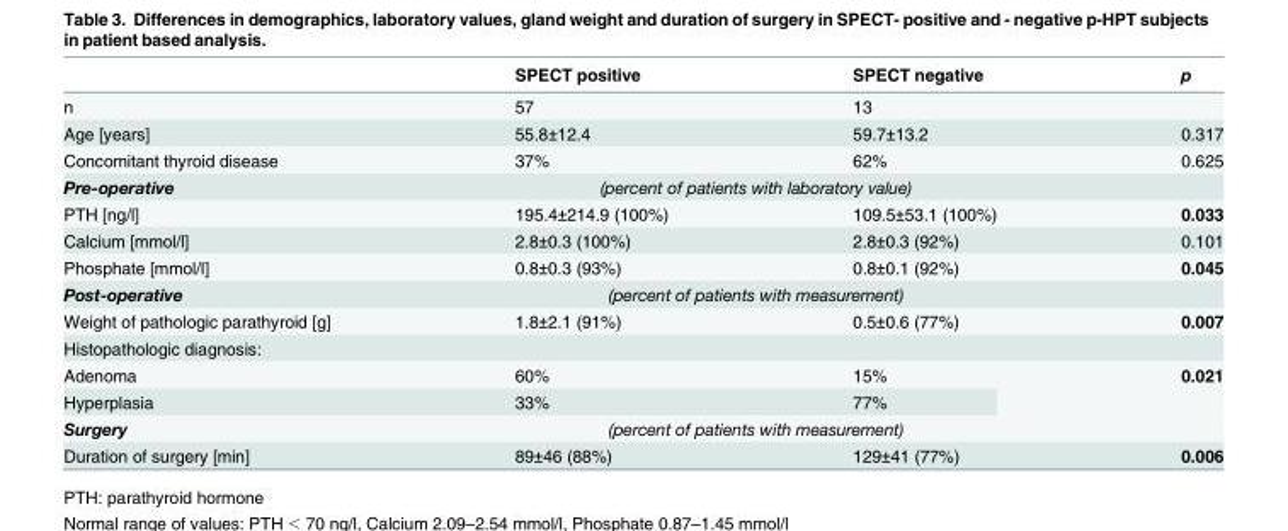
<table><thead><tr><td></td><td>SPECT positive</td><td>SPECT negative</td><td>p</td></tr></thead><tbody><tr><td>n</td><td>57</td><td>13</td><td></td></tr><tr><td>Age [years]</td><td>55.8±12.4</td><td>59.7±13.2</td><td>0.317</td></tr><tr><td>Concomitant thyroid disease</td><td>37%</td><td>62%</td><td>0.625</td></tr><tr><td>Pre-operative</td><td colspan="2">(percent of patients with laboratory value)</td><td></td></tr><tr><td>PTH [ng/l]</td><td>195.4±214.9 (100%)</td><td>109.5±53.1 (100%)</td><td>0.033</td></tr><tr><td>Calcium [mmol/l]</td><td>2.8±0.3 (100%)</td><td>2.8±0.3 (92%)</td><td>0.101</td></tr><tr><td>Phosphate [mmol/l]</td><td>0.8±0.3 (93%)</td><td>0.8±0.1 (92%)</td><td>0.045</td></tr><tr><td>Post-operative</td><td colspan="2">(percent of patients with measurement)</td><td></td></tr><tr><td>Weight of pathologic parathyroid [g]</td><td>1.8±2.1 (91%)</td><td>0.5±0.6 (77%)</td><td>0.007</td></tr><tr><td colspan="4">Histopathologic diagnosis:</td></tr><tr><td>Adenoma</td><td>60%</td><td>15%</td><td rowspan="2">0.021</td></tr><tr><td>Hyperplasia</td><td>33%</td><td>77%</td></tr><tr><td>Surgery</td><td colspan="2">(percent of patients with measurement)</td><td></td></tr><tr><td>Duration of surgery [min]</td><td>89±46 (88%)</td><td>129±41 (77%)</td><td>0.006</td></tr></tbody></table>